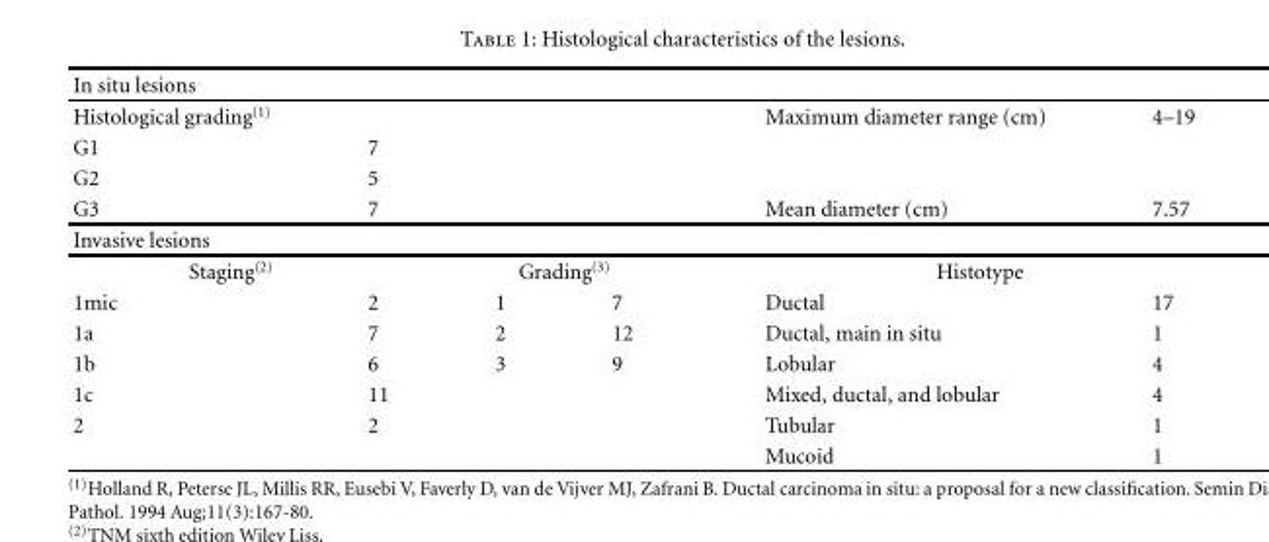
<table><thead><tr><td>In situ lesions</td><td></td><td></td><td></td><td></td><td></td></tr></thead><tbody><tr><td>Histological grading<sup>(1)</sup></td><td></td><td></td><td></td><td>Maximum diameter range (cm)</td><td>4–19</td></tr><tr><td>G1</td><td>7</td><td></td><td></td><td></td><td></td></tr><tr><td>G2</td><td>5</td><td></td><td></td><td></td><td></td></tr><tr><td>G3</td><td>7</td><td></td><td></td><td>Mean diameter (cm)</td><td>7.57</td></tr><tr><td colspan="6">Invasive lesions</td></tr><tr><td colspan="2">Staging<sup>(2)</sup></td><td colspan="2">Grading<sup>(3)</sup></td><td colspan="2">Histotype</td></tr><tr><td>1mic</td><td>2</td><td>1</td><td>7</td><td>Ductal</td><td>17</td></tr><tr><td>1a</td><td>7</td><td>2</td><td>12</td><td>Ductal, main in situ</td><td>1</td></tr><tr><td>1b</td><td>6</td><td>3</td><td>9</td><td>Lobular</td><td>4</td></tr><tr><td>1c</td><td>11</td><td></td><td></td><td>Mixed, ductal, and lobular</td><td>4</td></tr><tr><td rowspan="2">2</td><td>2</td><td></td><td></td><td>Tubular</td><td>1</td></tr><tr><td></td><td></td><td></td><td>Mucoid</td><td>1</td></tr></tbody></table>